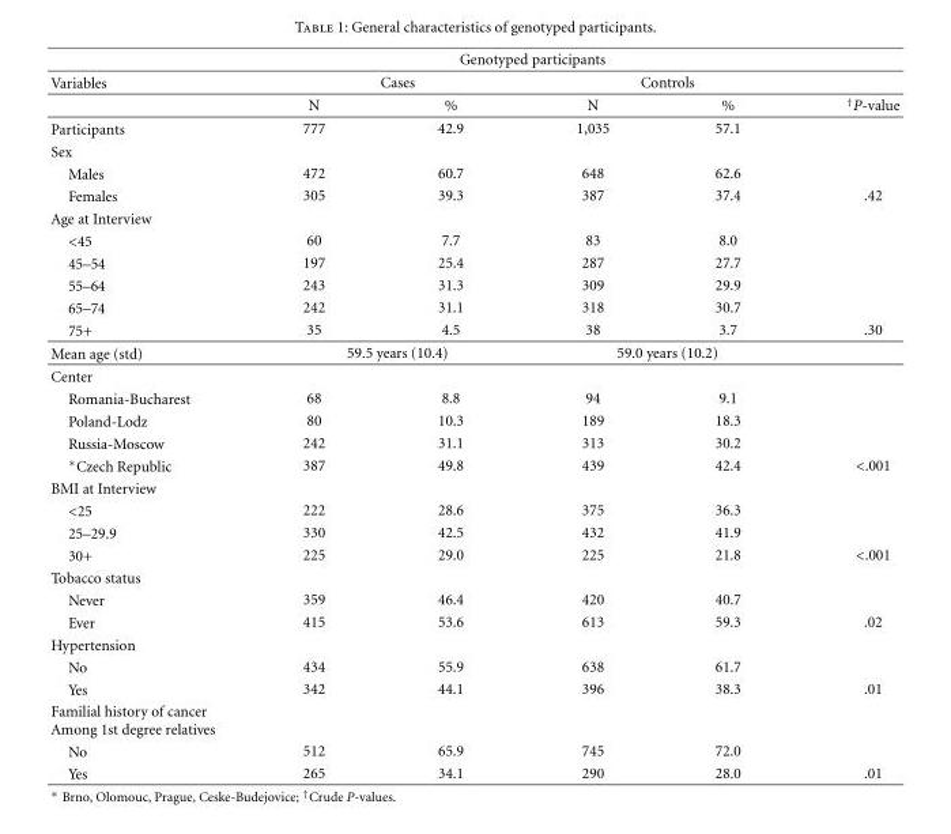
<table><thead><tr><td rowspan="3">Variables</td><td colspan="4">Genotyped participants</td><td rowspan="3"><sup>†</sup>P-value</td></tr><tr><td colspan="2">Cases</td><td colspan="2">Controls</td></tr><tr><td>N</td><td>%</td><td>N</td><td>%</td></tr></thead><tbody><tr><td>Participants</td><td>777</td><td>42.9</td><td>1,035</td><td>57.1</td><td></td></tr><tr><td colspan="6">Sex</td></tr><tr><td>Males</td><td>472</td><td>60.7</td><td>648</td><td>62.6</td><td></td></tr><tr><td>Females</td><td>305</td><td>39.3</td><td>387</td><td>37.4</td><td>.42</td></tr><tr><td colspan="6">Age at Interview</td></tr><tr><td>&lt;45</td><td>60</td><td>7.7</td><td>83</td><td>8.0</td><td></td></tr><tr><td>45–54</td><td>197</td><td>25.4</td><td>287</td><td>27.7</td><td></td></tr><tr><td>55–64</td><td>243</td><td>31.3</td><td>309</td><td>29.9</td><td></td></tr><tr><td>65–74</td><td>242</td><td>31.1</td><td>318</td><td>30.7</td><td></td></tr><tr><td>75+</td><td>35</td><td>4.5</td><td>38</td><td>3.7</td><td>.30</td></tr><tr><td>Mean age (std)</td><td colspan="2">59.5 years (10.4)</td><td colspan="2">59.0 years (10.2)</td><td></td></tr><tr><td colspan="6">Center</td></tr><tr><td>Romania-Bucharest</td><td>68</td><td>8.8</td><td>94</td><td>9.1</td><td></td></tr><tr><td>Poland-Lodz</td><td>80</td><td>10.3</td><td>189</td><td>18.3</td><td></td></tr><tr><td>Russia-Moscow</td><td>242</td><td>31.1</td><td>313</td><td>30.2</td><td></td></tr><tr><td>∗Czech Republic</td><td>387</td><td>49.8</td><td>439</td><td>42.4</td><td>&lt;.001</td></tr><tr><td colspan="6">BMI at Interview</td></tr><tr><td>&lt;25</td><td>222</td><td>28.6</td><td>375</td><td>36.3</td><td></td></tr><tr><td>25–29.9</td><td>330</td><td>42.5</td><td>432</td><td>41.9</td><td></td></tr><tr><td>30+</td><td>225</td><td>29.0</td><td>225</td><td>21.8</td><td>&lt;.001</td></tr><tr><td colspan="6">Tobacco status</td></tr><tr><td>Never</td><td>359</td><td>46.4</td><td>420</td><td>40.7</td><td></td></tr><tr><td>Ever</td><td>415</td><td>53.6</td><td>613</td><td>59.3</td><td>.02</td></tr><tr><td colspan="6">Hypertension</td></tr><tr><td>No</td><td>434</td><td>55.9</td><td>638</td><td>61.7</td><td></td></tr><tr><td>Yes</td><td>342</td><td>44.1</td><td>396</td><td>38.3</td><td>.01</td></tr><tr><td colspan="6">Familial history of cancer Among 1st degree relatives</td></tr><tr><td>No</td><td>512</td><td>65.9</td><td>745</td><td>72.0</td><td></td></tr><tr><td>Yes</td><td>265</td><td>34.1</td><td>290</td><td>28.0</td><td>.01</td></tr></tbody></table>